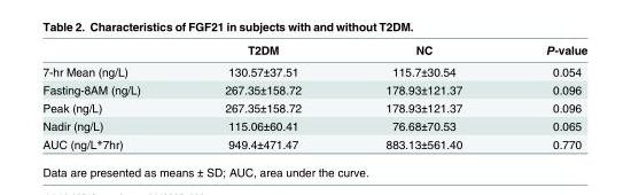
<table><thead><tr><td></td><td>T2DM</td><td>NC</td><td>P-value</td></tr></thead><tbody><tr><td>7-hr Mean (ng/L)</td><td>130.57±37.51</td><td>115.7±30.54</td><td>0.054</td></tr><tr><td>Fasting-8AM (ng/L)</td><td>267.35±158.72</td><td>178.93±121.37</td><td>0.096</td></tr><tr><td>Peak (ng/L)</td><td>267.35±158.72</td><td>178.93±121.37</td><td>0.096</td></tr><tr><td>Nadir (ng/L)</td><td>115.06±60.41</td><td>76.68±70.53</td><td>0.065</td></tr><tr><td>AUC (ng/L*7hr)</td><td>949.4±471.47</td><td>883.13±561.40</td><td>0.770</td></tr></tbody></table>